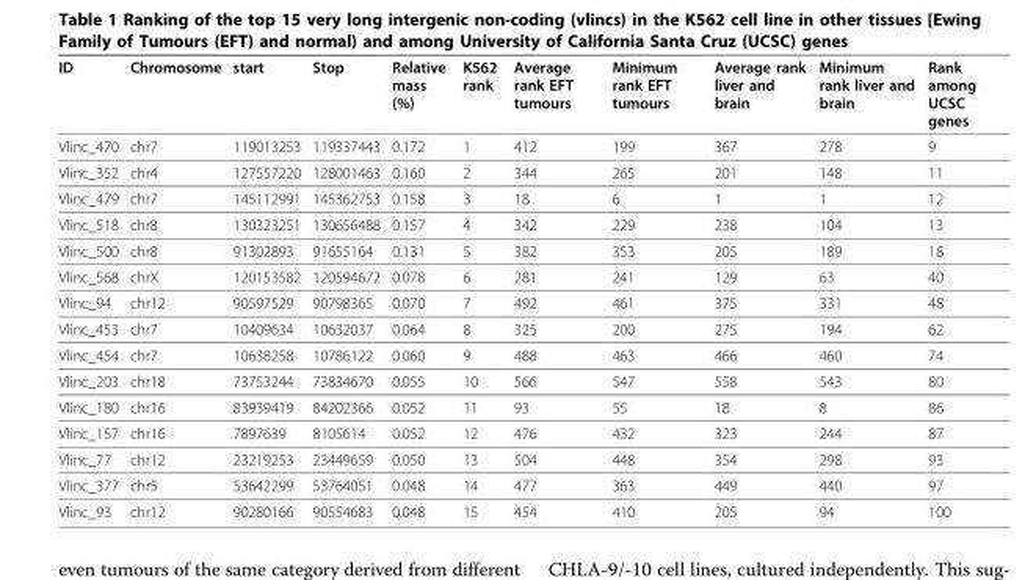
<table><thead><tr><td>ID</td><td>Chromosome</td><td>start</td><td>Stop</td><td>Relative mass (%)</td><td>K562 rank</td><td>Average rank EFT tumours</td><td>Minimum rank EFT tumours</td><td>Average rank liver and brain</td><td>Minimum rank liver and brain</td><td>Rank among UCSC genes</td></tr></thead><tbody><tr><td>Vlinc_470</td><td>chr7</td><td>119013253</td><td>119337443</td><td>0.172</td><td>1</td><td>412</td><td>199</td><td>367</td><td>278</td><td>9</td></tr><tr><td>Vlinc_352</td><td>chr4</td><td>127557220</td><td>128001463</td><td>0.160</td><td>2</td><td>344</td><td>265</td><td>201</td><td>148</td><td>11</td></tr><tr><td>Vlinc_479</td><td>chr7</td><td>145112991</td><td>145362753</td><td>0.158</td><td>3</td><td>18</td><td>6</td><td>1</td><td>1</td><td>12</td></tr><tr><td>Vlinc_518</td><td>chr8</td><td>130323251</td><td>130656488</td><td>0.157</td><td>4</td><td>342</td><td>229</td><td>238</td><td>104</td><td>13</td></tr><tr><td>Vlinc_500</td><td>chr8</td><td>91302893</td><td>91655164</td><td>0.131</td><td>5</td><td>382</td><td>353</td><td>205</td><td>189</td><td>18</td></tr><tr><td>Vlinc_568</td><td>chrX</td><td>120153582</td><td>120594672</td><td>0.078</td><td>6</td><td>281</td><td>241</td><td>129</td><td>63</td><td>40</td></tr><tr><td>Vlinc_94</td><td>chr12</td><td>90597529</td><td>90798365</td><td>0.070</td><td>7</td><td>492</td><td>461</td><td>375</td><td>331</td><td>48</td></tr><tr><td>Vlinc_453</td><td>chr7</td><td>10409634</td><td>10632037</td><td>0.064</td><td>8</td><td>325</td><td>200</td><td>275</td><td>194</td><td>62</td></tr><tr><td>Vlinc_454</td><td>chr7</td><td>10638258</td><td>10786122</td><td>0.060</td><td>9</td><td>488</td><td>463</td><td>466</td><td>460</td><td>74</td></tr><tr><td>Vlinc_203</td><td>chr18</td><td>73753244</td><td>73834670</td><td>0.055</td><td>10</td><td>566</td><td>547</td><td>558</td><td>543</td><td>80</td></tr><tr><td>Vlinc_180</td><td>chr16</td><td>83939419</td><td>84202366</td><td>0.052</td><td>11</td><td>93</td><td>55</td><td>18</td><td>8</td><td>86</td></tr><tr><td>Vlinc_157</td><td>chr16</td><td>7897639</td><td>8105614</td><td>0.052</td><td>12</td><td>476</td><td>432</td><td>323</td><td>244</td><td>87</td></tr><tr><td>Vlinc_77</td><td>chr12</td><td>23219253</td><td>23449659</td><td>0.050</td><td>13</td><td>504</td><td>448</td><td>354</td><td>298</td><td>93</td></tr><tr><td>Vlinc_377</td><td>chr5</td><td>53642299</td><td>53764051</td><td>0.048</td><td>14</td><td>477</td><td>363</td><td>449</td><td>440</td><td>97</td></tr><tr><td>Vlinc_93</td><td>chr12</td><td>90280166</td><td>90554683</td><td>0.048</td><td>15</td><td>454</td><td>410</td><td>205</td><td>94</td><td>100</td></tr></tbody></table>